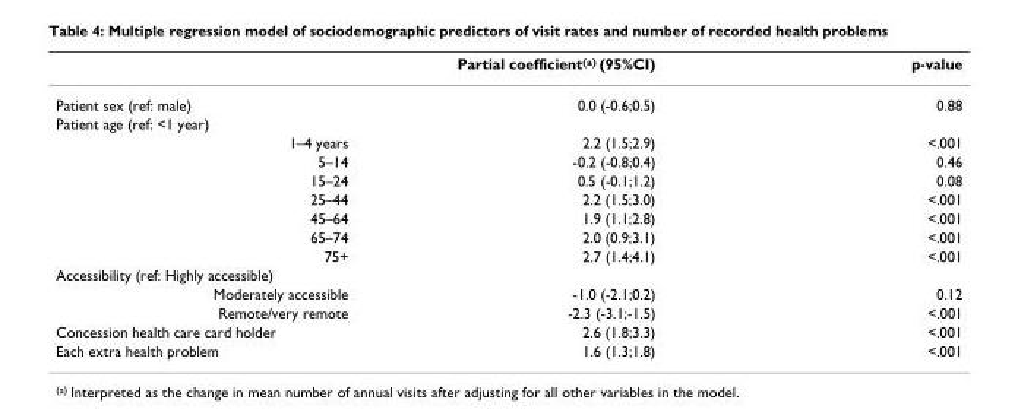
<table><thead><tr><td></td><td>Partial coefficient<sup>(a)</sup> (95%CI)</td><td>p-value</td></tr></thead><tbody><tr><td>Patient sex (ref: male)</td><td>0.0 (-0.6;0.5)</td><td>0.88</td></tr><tr><td colspan="3">Patient age (ref: &lt;1 year)</td></tr><tr><td>1–4 years</td><td>2.2 (1.5;2.9)</td><td>&lt;.001</td></tr><tr><td>5–14</td><td>-0.2 (-0.8;0.4)</td><td>0.46</td></tr><tr><td>15–24</td><td>0.5 (-0.1;1.2)</td><td>0.08</td></tr><tr><td>25–44</td><td>2.2 (1.5;3.0)</td><td>&lt;.001</td></tr><tr><td>45–64</td><td>1.9 (1.1;2.8)</td><td>&lt;.001</td></tr><tr><td>65–74</td><td>2.0 (0.9;3.1)</td><td>&lt;.001</td></tr><tr><td>75+</td><td>2.7 (1.4;4.1)</td><td>&lt;.001</td></tr><tr><td colspan="3">Accessibility (ref: Highly accessible)</td></tr><tr><td>Moderately accessible</td><td>-1.0 (-2.1;0.2)</td><td>0.12</td></tr><tr><td>Remote/very remote</td><td>-2.3 (-3.1;-1.5)</td><td>&lt;.001</td></tr><tr><td>Concession health care card holder</td><td>2.6 (1.8;3.3)</td><td>&lt;.001</td></tr><tr><td>Each extra health problem</td><td>1.6 (1.3;1.8)</td><td>&lt;.001</td></tr></tbody></table>